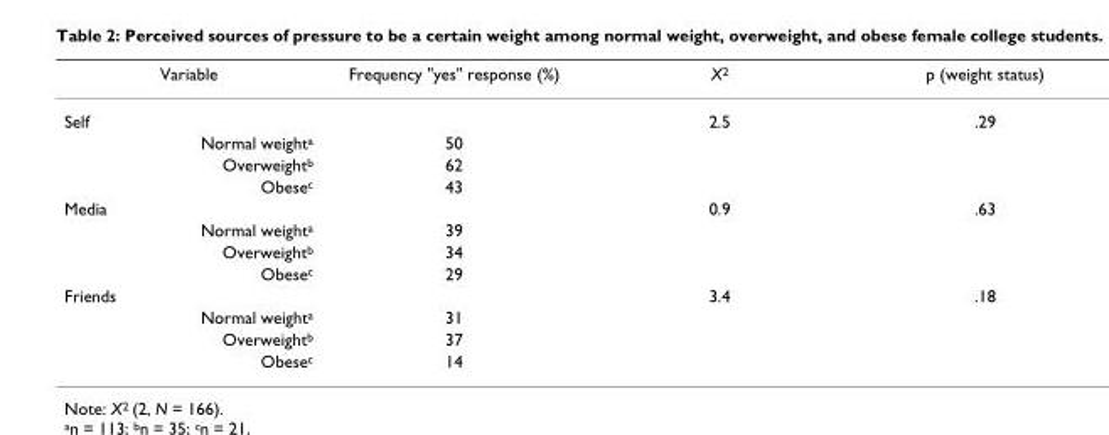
<table><thead><tr><td>Variable</td><td>Frequency &quot;yes&quot; response (%)</td><td>X<sup>2</sup></td><td>p (weight status)</td></tr></thead><tbody><tr><td>Self</td><td></td><td>2.5</td><td>.29</td></tr><tr><td>Normal weight<sup>a</sup></td><td>50</td><td></td><td></td></tr><tr><td>Overweight<sup>b</sup></td><td>62</td><td></td><td></td></tr><tr><td>Obese<sup>c</sup></td><td>43</td><td></td><td></td></tr><tr><td>Media</td><td></td><td>0.9</td><td>.63</td></tr><tr><td>Normal weight<sup>a</sup></td><td>39</td><td></td><td></td></tr><tr><td>Overweight<sup>b</sup></td><td>34</td><td></td><td></td></tr><tr><td>Obese<sup>c</sup></td><td>29</td><td></td><td></td></tr><tr><td>Friends</td><td></td><td>3.4</td><td>.18</td></tr><tr><td>Normal weight<sup>a</sup></td><td>31</td><td></td><td></td></tr><tr><td>Overweight<sup>b</sup></td><td>37</td><td></td><td></td></tr><tr><td>Obese<sup>c</sup></td><td>14</td><td></td><td></td></tr></tbody></table>